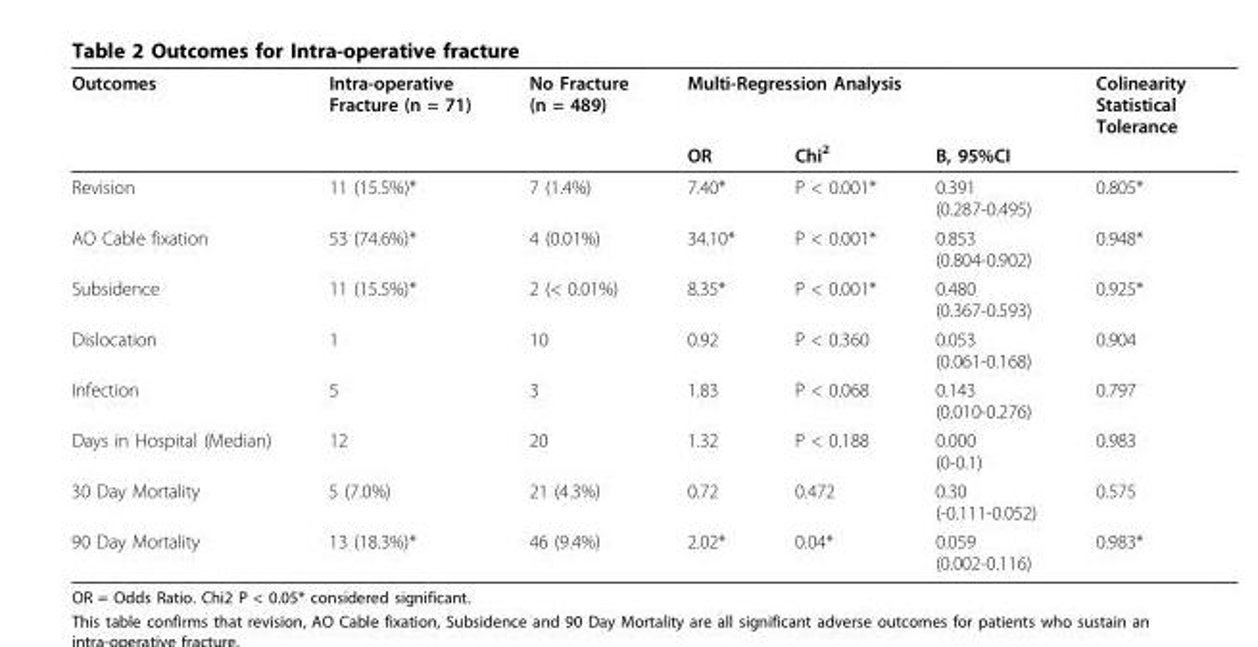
<table><thead><tr><td rowspan="2">Outcomes</td><td rowspan="2">Intra-operative Fracture (n = 71)</td><td rowspan="2">No Fracture (n = 489)</td><td colspan="3">Multi-Regression Analysis</td><td rowspan="2">Colinearity Statistical Tolerance</td></tr><tr><td>OR</td><td>Chi<sup>2</sup></td><td>B, 95%CI</td></tr></thead><tbody><tr><td>Revision</td><td>11 (15.5%)*</td><td>7 (1.4%)</td><td>7.40*</td><td>P &lt; 0.001*</td><td>0.391 (0.287-0.495)</td><td>0.805*</td></tr><tr><td>AO Cable fixation</td><td>53 (74.6%)*</td><td>4 (0.01%)</td><td>34.10*</td><td>P &lt; 0.001*</td><td>0.853 (0.804-0.902)</td><td>0.948*</td></tr><tr><td>Subsidence</td><td>11 (15.5%)*</td><td>2 (&lt; 0.01%)</td><td>8.35*</td><td>P &lt; 0.001*</td><td>0.480 (0.367-0.593)</td><td>0.925*</td></tr><tr><td>Dislocation</td><td>1</td><td>10</td><td>0.92</td><td>P &lt; 0.360</td><td>0.053 (0.061-0.168)</td><td>0.904</td></tr><tr><td>Infection</td><td>5</td><td>3</td><td>1.83</td><td>P &lt; 0.068</td><td>0.143 (0.010-0.276)</td><td>0.797</td></tr><tr><td>Days in Hospital (Median)</td><td>12</td><td>20</td><td>1.32</td><td>P &lt; 0.188</td><td>0.000 (0-0.1)</td><td>0.983</td></tr><tr><td>30 Day Mortality</td><td>5 (7.0%)</td><td>21 (4.3%)</td><td>0.72</td><td>0.472</td><td>0.30 (-0.111-0.052)</td><td>0.575</td></tr><tr><td>90 Day Mortality</td><td>13 (18.3%)*</td><td>46 (9.4%)</td><td>2.02*</td><td>0.04*</td><td>0.059 (0.002-0.116)</td><td>0.983*</td></tr></tbody></table>